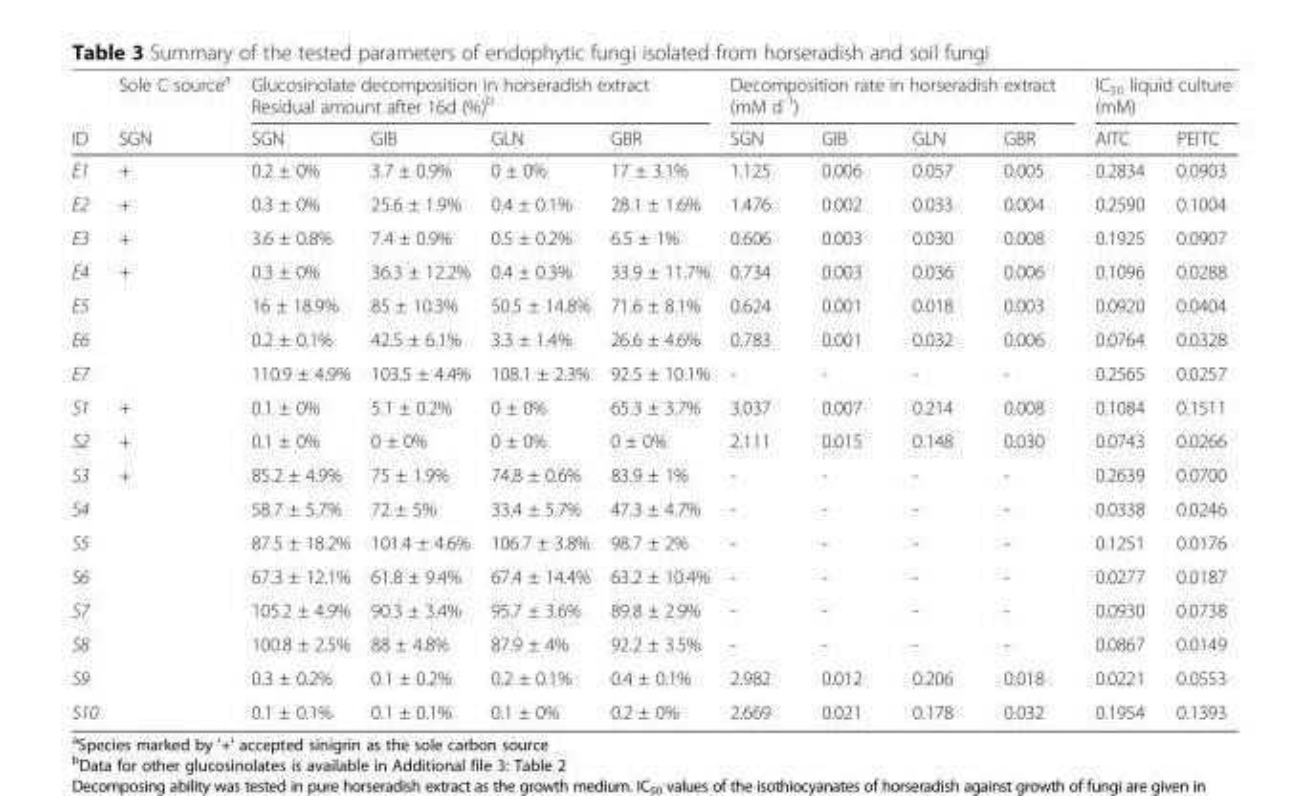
<table><thead><tr><td rowspan="2">ID</td><td rowspan="2">Sole C source<sup>a</sup> SGN</td><td colspan="4">Glucosinolate decomposition in horseradish extract Residual amount after 16d (%)<sup>b</sup></td><td colspan="4">Decomposition rate in horseradish extract (mM d<sup>-1</sup>)</td><td colspan="2">IC<sub>50</sub> liquid culture (mM)</td></tr><tr><td>SGN</td><td>GIB</td><td>GLN</td><td>GBR</td><td>SGN</td><td>GIB</td><td>GLN</td><td>GBR</td><td>AITC</td><td>PEITC</td></tr></thead><tbody><tr><td>E1</td><td>+</td><td>0.2 ± 0%</td><td>3.7 ± 0.9%</td><td>0 ± 0%</td><td>17 ± 3.1%</td><td>1.125</td><td>0.006</td><td>0.057</td><td>0.005</td><td>0.2834</td><td>0.0903</td></tr><tr><td>E2</td><td>+</td><td>0.3 ± 0%</td><td>25.6 ± 1.9%</td><td>0.4 ± 0.1%</td><td>28.1 ± 1.6%</td><td>1.476</td><td>0.002</td><td>0.033</td><td>0.004</td><td>0.2590</td><td>0.1004</td></tr><tr><td>E3</td><td>+</td><td>3.6 ± 0.8%</td><td>7.4 ± 0.9%</td><td>0.5 ± 0.2%</td><td>6.5 ± 1%</td><td>0.606</td><td>0.003</td><td>0.030</td><td>0.008</td><td>0.1925</td><td>0.0907</td></tr><tr><td>E4</td><td>+</td><td>0.3 ± 0%</td><td>36.3 ± 12.2%</td><td>0.4 ± 0.3%</td><td>33.9 ± 11.7%</td><td>0.734</td><td>0.003</td><td>0.036</td><td>0.006</td><td>0.1096</td><td>0.0288</td></tr><tr><td>E5</td><td></td><td>16 ± 18.9%</td><td>85 ± 10.3%</td><td>50.5 ± 14.8%</td><td>71.6 ± 8.1%</td><td>0.624</td><td>0.001</td><td>0.018</td><td>0.003</td><td>0.0920</td><td>0.0404</td></tr><tr><td>E6</td><td></td><td>0.2 ± 0.1%</td><td>42.5 ± 6.1%</td><td>3.3 ± 1.4%</td><td>26.6 ± 4.6%</td><td>0.783</td><td>0.001</td><td>0.032</td><td>0.006</td><td>0.0764</td><td>0.0328</td></tr><tr><td>E7</td><td></td><td>110.9 ± 4.9%</td><td>103.5 ± 4.4%</td><td>108.1 ± 2.3%</td><td>92.5 ± 10.1%</td><td>-</td><td>-</td><td>-</td><td>-</td><td>0.2565</td><td>0.0257</td></tr><tr><td>S1</td><td>+</td><td>0.1 ± 0%</td><td>5.1 ± 0.2%</td><td>0 ± 0%</td><td>65.3 ± 3.7%</td><td>3.037</td><td>0.007</td><td>0.214</td><td>0.008</td><td>0.1084</td><td>0.1511</td></tr><tr><td>S2</td><td>+</td><td>0.1 ± 0%</td><td>0 ± 0%</td><td>0 ± 0%</td><td>0 ± 0%</td><td>2.111</td><td>0.015</td><td>0.148</td><td>0.030</td><td>0.0743</td><td>0.0266</td></tr><tr><td>S3</td><td>+</td><td>85.2 ± 4.9%</td><td>75 ± 1.9%</td><td>74.8 ± 0.6%</td><td>83.9 ± 1%</td><td>-</td><td>-</td><td>-</td><td>-</td><td>0.2639</td><td>0.0700</td></tr><tr><td>S4</td><td></td><td>58.7 ± 5.7%</td><td>72 ± 5%</td><td>33.4 ± 5.7%</td><td>47.3 ± 4.7%</td><td>-</td><td>-</td><td>-</td><td>-</td><td>0.0338</td><td>0.0246</td></tr><tr><td>S5</td><td></td><td>87.5 ± 18.2%</td><td>101.4 ± 4.6%</td><td>106.7 ± 3.8%</td><td>98.7 ± 2%</td><td>-</td><td>-</td><td>-</td><td>-</td><td>0.1251</td><td>0.0176</td></tr><tr><td>S6</td><td></td><td>67.3 ± 12.1%</td><td>61.8 ± 9.4%</td><td>67.4 ± 14.4%</td><td>63.2 ± 10.4%</td><td>-</td><td>-</td><td>-</td><td>-</td><td>0.0277</td><td>0.0187</td></tr><tr><td>S7</td><td></td><td>105.2 ± 4.9%</td><td>90.3 ± 3.4%</td><td>95.7 ± 3.6%</td><td>89.8 ± 2.9%</td><td>-</td><td>-</td><td>-</td><td>-</td><td>0.0930</td><td>0.0738</td></tr><tr><td>S8</td><td></td><td>100.8 ± 2.5%</td><td>88 ± 4.8%</td><td>87.9 ± 4%</td><td>92.2 ± 3.5%</td><td>-</td><td>-</td><td>-</td><td>-</td><td>0.0867</td><td>0.0149</td></tr><tr><td>S9</td><td></td><td>0.3 ± 0.2%</td><td>0.1 ± 0.2%</td><td>0.2 ± 0.1%</td><td>0.4 ± 0.1%</td><td>2.982</td><td>0.012</td><td>0.206</td><td>0.018</td><td>0.0221</td><td>0.0553</td></tr><tr><td>S10</td><td></td><td>0.1 ± 0.1%</td><td>0.1 ± 0.1%</td><td>0.1 ± 0%</td><td>0.2 ± 0%</td><td>2.669</td><td>0.021</td><td>0.178</td><td>0.032</td><td>0.1954</td><td>0.1393</td></tr></tbody></table>